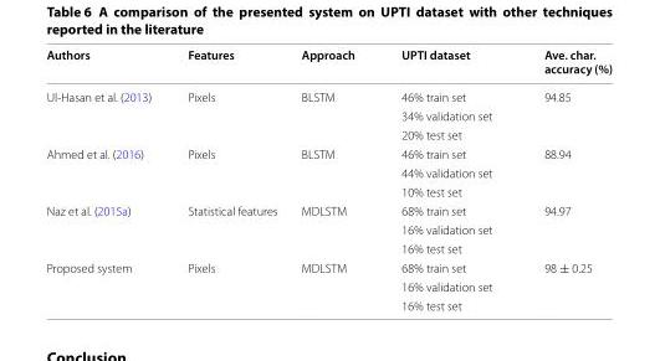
<table><thead><tr><td>Authors</td><td>Features</td><td>Approach</td><td>UPTI dataset</td><td>Ave. char. accuracy (%)</td></tr></thead><tbody><tr><td rowspan="3">Ul-Hasan et al. (2013)</td><td rowspan="3">Pixels</td><td rowspan="3">BLSTM</td><td>46% train set</td><td rowspan="3">94.85</td></tr><tr><td>34% validation set</td></tr><tr><td>20% test set</td></tr><tr><td rowspan="3">Ahmed et al. (2016)</td><td rowspan="3">Pixels</td><td rowspan="3">BLSTM</td><td>46% train set</td><td rowspan="3">88.94</td></tr><tr><td>44% validation set</td></tr><tr><td>10% test set</td></tr><tr><td rowspan="3">Naz et al. (2015a)</td><td rowspan="3">Statistical features</td><td rowspan="3">MDLSTM</td><td>68% train set</td><td rowspan="3">94.97</td></tr><tr><td>16% validation set</td></tr><tr><td>16% test set</td></tr><tr><td rowspan="3">Proposed system</td><td rowspan="3">Pixels</td><td rowspan="3">MDLSTM</td><td>68% train set</td><td rowspan="3">98 ± 0.25</td></tr><tr><td>16% validation set</td></tr><tr><td>16% test set</td></tr></tbody></table>